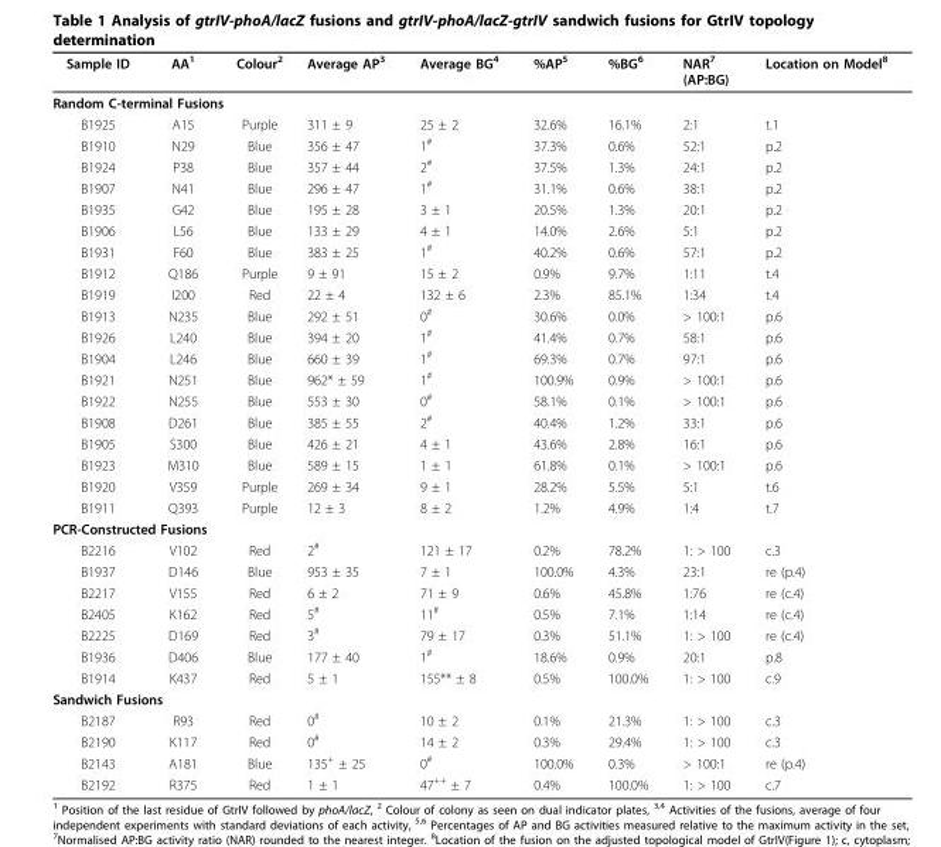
<table><thead><tr><td>Sample ID</td><td>AA<sup>1</sup></td><td>Colour<sup>2</sup></td><td>Average AP<sup>3</sup></td><td>Average BG<sup>4</sup></td><td>%AP<sup>5</sup></td><td>%BG<sup>6</sup></td><td>NAR<sup>7</sup> (AP:BG)</td><td>Location on Model<sup>8</sup></td></tr></thead><tbody><tr><td colspan="9">Random C-terminal Fusions</td></tr><tr><td>B1925</td><td>A15</td><td>Purple</td><td>311 ± 9</td><td>25 ± 2</td><td>32.6%</td><td>16.1%</td><td>2:1</td><td>t.1</td></tr><tr><td>B1910</td><td>N29</td><td>Blue</td><td>356 ± 47</td><td>1<sup>#</sup></td><td>37.3%</td><td>0.6%</td><td>52:1</td><td>p.2</td></tr><tr><td>B1924</td><td>P38</td><td>Blue</td><td>357 ± 44</td><td>2<sup>#</sup></td><td>37.5%</td><td>1.3%</td><td>24:1</td><td>p.2</td></tr><tr><td>B1907</td><td>N41</td><td>Blue</td><td>296 ± 47</td><td>1<sup>#</sup></td><td>31.1%</td><td>0.6%</td><td>38:1</td><td>p.2</td></tr><tr><td>B1935</td><td>G42</td><td>Blue</td><td>195 ± 28</td><td>3 ± 1</td><td>20.5%</td><td>1.3%</td><td>20:1</td><td>p.2</td></tr><tr><td>B1906</td><td>L56</td><td>Blue</td><td>133 ± 29</td><td>4 ± 1</td><td>14.0%</td><td>2.6%</td><td>5:1</td><td>p.2</td></tr><tr><td>B1931</td><td>F60</td><td>Blue</td><td>383 ± 25</td><td>1<sup>#</sup></td><td>40.2%</td><td>0.6%</td><td>57:1</td><td>p.2</td></tr><tr><td>B1912</td><td>Q186</td><td>Purple</td><td>9 ± 91</td><td>15 ± 2</td><td>0.9%</td><td>9.7%</td><td>1:11</td><td>t.4</td></tr><tr><td>B1919</td><td>I200</td><td>Red</td><td>22 ± 4</td><td>132 ± 6</td><td>2.3%</td><td>85.1%</td><td>1:34</td><td>t.4</td></tr><tr><td>B1913</td><td>N235</td><td>Blue</td><td>292 ± 51</td><td>0<sup>#</sup></td><td>30.6%</td><td>0.0%</td><td>&gt; 100:1</td><td>p.6</td></tr><tr><td>B1926</td><td>L240</td><td>Blue</td><td>394 ± 20</td><td>1<sup>#</sup></td><td>41.4%</td><td>0.7%</td><td>58:1</td><td>p.6</td></tr><tr><td>B1904</td><td>L246</td><td>Blue</td><td>660 ± 39</td><td>1<sup>#</sup></td><td>69.3%</td><td>0.7%</td><td>97:1</td><td>p.6</td></tr><tr><td>B1921</td><td>N251</td><td>Blue</td><td>962* ± 59</td><td>1<sup>#</sup></td><td>100.9%</td><td>0.9%</td><td>&gt; 100:1</td><td>p.6</td></tr><tr><td>B1922</td><td>N255</td><td>Blue</td><td>553 ± 30</td><td>0<sup>#</sup></td><td>58.1%</td><td>0.1%</td><td>&gt; 100:1</td><td>p.6</td></tr><tr><td>B1908</td><td>D261</td><td>Blue</td><td>385 ± 55</td><td>2<sup>#</sup></td><td>40.4%</td><td>1.2%</td><td>33:1</td><td>p.6</td></tr><tr><td>B1905</td><td>S300</td><td>Blue</td><td>426 ± 21</td><td>4 ± 1</td><td>43.6%</td><td>2.8%</td><td>16:1</td><td>p.6</td></tr><tr><td>B1923</td><td>M310</td><td>Blue</td><td>589 ± 15</td><td>1 ± 1</td><td>61.8%</td><td>0.1%</td><td>&gt; 100:1</td><td>p.6</td></tr><tr><td>B1920</td><td>V359</td><td>Purple</td><td>269 ± 34</td><td>9 ± 1</td><td>28.2%</td><td>5.5%</td><td>5:1</td><td>t.6</td></tr><tr><td>B1911</td><td>Q393</td><td>Purple</td><td>12 ± 3</td><td>8 ± 2</td><td>1.2%</td><td>4.9%</td><td>1:4</td><td>t.7</td></tr><tr><td colspan="9">PCR-Constructed Fusions</td></tr><tr><td>B2216</td><td>V102</td><td>Red</td><td>2<sup>#</sup></td><td>121 ± 17</td><td>0.2%</td><td>78.2%</td><td>1: &gt; 100</td><td>c.3</td></tr><tr><td>B1937</td><td>D146</td><td>Blue</td><td>953 ± 35</td><td>7 ± 1</td><td>100.0%</td><td>4.3%</td><td>23:1</td><td>re (p.4)</td></tr><tr><td>B2217</td><td>V155</td><td>Red</td><td>6 ± 2</td><td>71 ± 9</td><td>0.6%</td><td>45.8%</td><td>1:76</td><td>re (c.4)</td></tr><tr><td>B2405</td><td>K162</td><td>Red</td><td>5<sup>#</sup></td><td>11<sup>#</sup></td><td>0.5%</td><td>7.1%</td><td>1:14</td><td>re (c.4)</td></tr><tr><td>B2225</td><td>D169</td><td>Red</td><td>3<sup>#</sup></td><td>79 ± 17</td><td>0.3%</td><td>51.1%</td><td>1: &gt; 100</td><td>re (c.4)</td></tr><tr><td>B1936</td><td>D406</td><td>Blue</td><td>177 ± 40</td><td>1<sup>#</sup></td><td>18.6%</td><td>0.9%</td><td>20:1</td><td>p.8</td></tr><tr><td>B1914</td><td>K437</td><td>Red</td><td>5 ± 1</td><td>155** ± 8</td><td>0.5%</td><td>100.0%</td><td>1: &gt; 100</td><td>c.9</td></tr><tr><td colspan="9">Sandwich Fusions</td></tr><tr><td>B2187</td><td>R93</td><td>Red</td><td>0<sup>#</sup></td><td>10 ± 2</td><td>0.1%</td><td>21.3%</td><td>1: &gt; 100</td><td>c.3</td></tr><tr><td>B2190</td><td>K117</td><td>Red</td><td>0<sup>#</sup></td><td>14 ± 2</td><td>0.3%</td><td>29.4%</td><td>1: &gt; 100</td><td>c.3</td></tr><tr><td>B2143</td><td>A181</td><td>Blue</td><td>135<sup>+</sup> ± 25</td><td>0<sup>#</sup></td><td>100.0%</td><td>0.3%</td><td>&gt; 100:1</td><td>re (p.4)</td></tr><tr><td>B2192</td><td>R375</td><td>Red</td><td>1 ± 1</td><td>47<sup>++</sup> ± 7</td><td>0.4%</td><td>100.0%</td><td>1: &gt; 100</td><td>c.7</td></tr></tbody></table>